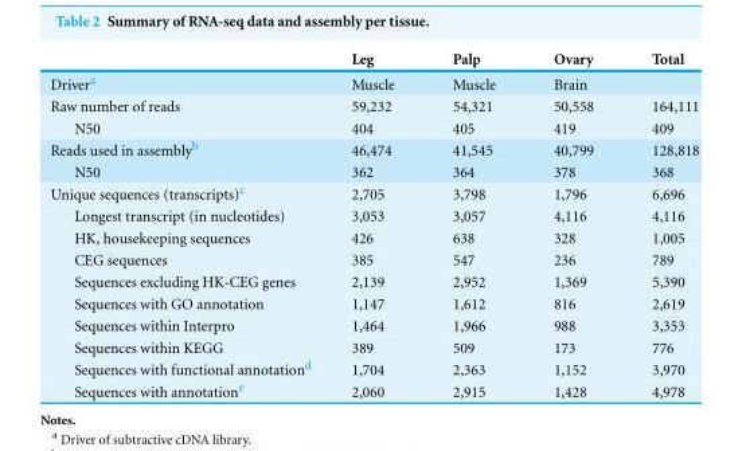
<table><thead><tr><td></td><td>Leg</td><td>Palp</td><td>Ovary</td><td>Total</td></tr></thead><tbody><tr><td>Driver<sup>a</sup></td><td>Muscle</td><td>Muscle</td><td>Brain</td><td></td></tr><tr><td>Raw number of reads</td><td>59,232</td><td>54,321</td><td>50,558</td><td>164,111</td></tr><tr><td>N50</td><td>404</td><td>405</td><td>419</td><td>409</td></tr><tr><td>Reads used in assembly<sup>b</sup></td><td>46,474</td><td>41,545</td><td>40,799</td><td>128,818</td></tr><tr><td>N50</td><td>362</td><td>364</td><td>378</td><td>368</td></tr><tr><td>Unique sequences (transcripts)<sup>c</sup></td><td>2,705</td><td>3,798</td><td>1,796</td><td>6,696</td></tr><tr><td>Longest transcript (in nucleotides)</td><td>3,053</td><td>3,057</td><td>4,116</td><td>4,116</td></tr><tr><td>HK, housekeeping sequences</td><td>426</td><td>638</td><td>328</td><td>1,005</td></tr><tr><td>CEG sequences</td><td>385</td><td>547</td><td>236</td><td>789</td></tr><tr><td>Sequences excluding HK-CEG genes</td><td>2,139</td><td>2,952</td><td>1,369</td><td>5,390</td></tr><tr><td>Sequences with GO annotation</td><td>1,147</td><td>1,612</td><td>816</td><td>2,619</td></tr><tr><td>Sequences within Interpro</td><td>1,464</td><td>1,966</td><td>988</td><td>3,353</td></tr><tr><td>Sequences within KEGG</td><td>389</td><td>509</td><td>173</td><td>776</td></tr><tr><td>Sequences with functional annotation<sup>d</sup></td><td>1,704</td><td>2,363</td><td>1,152</td><td>3,970</td></tr><tr><td>Sequences with annotation<sup>e</sup></td><td>2,060</td><td>2,915</td><td>1,428</td><td>4,978</td></tr></tbody></table>